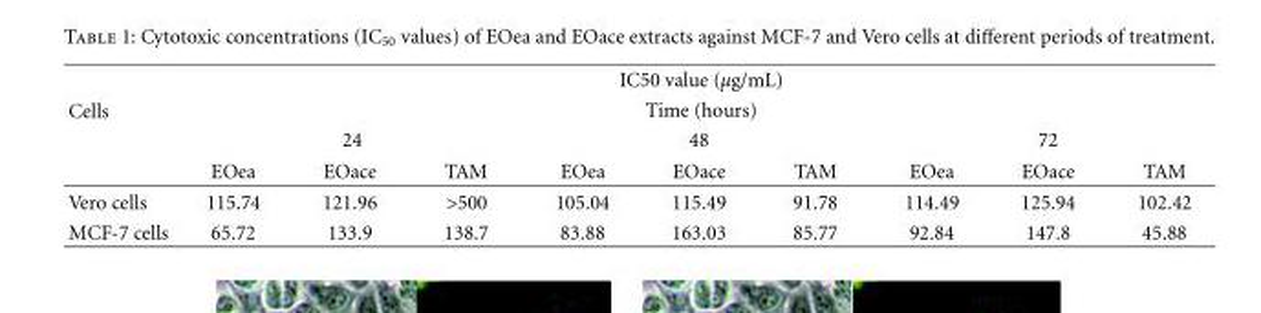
<table><thead><tr><td rowspan="4">Cells</td><td rowspan="2" colspan="9">IC50 value (µg/mL) Time (hours)</td></tr><tr></tr><tr><td colspan="3">24</td><td colspan="3">48</td><td colspan="3">72</td></tr><tr><td>EOea</td><td>EOace</td><td>TAM</td><td>EOea</td><td>EOace</td><td>TAM</td><td>EOea</td><td>EOace</td><td>TAM</td></tr></thead><tbody><tr><td>Vero cells</td><td>115.74</td><td>121.96</td><td>&gt;500</td><td>105.04</td><td>115.49</td><td>91.78</td><td>114.49</td><td>125.94</td><td>102.42</td></tr><tr><td>MCF-7 cells</td><td>65.72</td><td>133.9</td><td>138.7</td><td>83.88</td><td>163.03</td><td>85.77</td><td>92.84</td><td>147.8</td><td>45.88</td></tr></tbody></table>